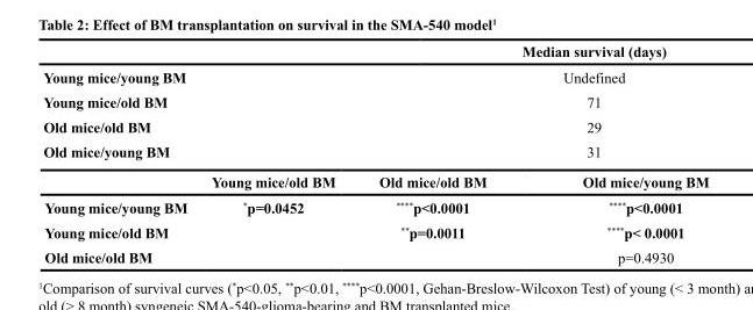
<table><thead><tr><td></td><td></td><td colspan="2">Median survival (days)</td></tr></thead><tbody><tr><td>Young mice/young BM</td><td></td><td colspan="2">Undefined</td></tr><tr><td>Young mice/old BM</td><td></td><td colspan="2">71</td></tr><tr><td>Old mice/old BM</td><td></td><td colspan="2">29</td></tr><tr><td rowspan="2">Old mice/young BM</td><td></td><td colspan="2">31</td></tr><tr><td>Young mice/old BM</td><td>Old mice/old BM</td><td>Old mice/young BM</td></tr><tr><td>Young mice/young BM</td><td>*p=0.0452</td><td>****p&lt;0.0001</td><td>****p&lt;0.0001</td></tr><tr><td>Young mice/old BM</td><td></td><td>**p=0.0011</td><td>****p&lt; 0.0001</td></tr><tr><td>Old mice/old BM</td><td></td><td></td><td>p=0.4930</td></tr></tbody></table>